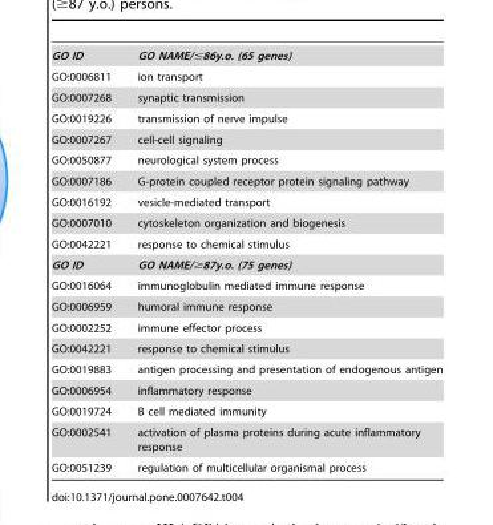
<table><tbody><tr><td>GO ID</td><td>GO NAME/≤86y.o. (65 genes)</td></tr><tr><td>GO:0006811</td><td>ion transport</td></tr><tr><td>GO:0007268</td><td>synaptic transmission</td></tr><tr><td>GO:0019226</td><td>transmission of nerve impulse</td></tr><tr><td>GO:0007267</td><td>cell-cell signaling</td></tr><tr><td>GO:0050877</td><td>neurological system process</td></tr><tr><td>GO:0007186</td><td>G-protein coupled receptor protein signaling pathway</td></tr><tr><td>GO:0016192</td><td>vesicle-mediated transport</td></tr><tr><td>GO:0007010</td><td>cytoskeleton organization and biogenesis</td></tr><tr><td>GO:0042221</td><td>response to chemical stimulus</td></tr><tr><td>GO ID</td><td>GO NAME/≥87y.o. (75 genes)</td></tr><tr><td>GO:0016064</td><td>immunoglobulin mediated immune response</td></tr><tr><td>GO:0006959</td><td>humoral immune response</td></tr><tr><td>GO:0002252</td><td>immune effector process</td></tr><tr><td>GO:0042221</td><td>response to chemical stimulus</td></tr><tr><td>GO:0019883</td><td>antigen processing and presentation of endogenous antigen</td></tr><tr><td>GO:0006954</td><td>inflammatory response</td></tr><tr><td>GO:0019724</td><td>B cell mediated immunity</td></tr><tr><td>GO:0002541</td><td>activation of plasma proteins during acute inflammatory response</td></tr><tr><td>GO:0051239</td><td>regulation of multicellular organismal process</td></tr></tbody></table>